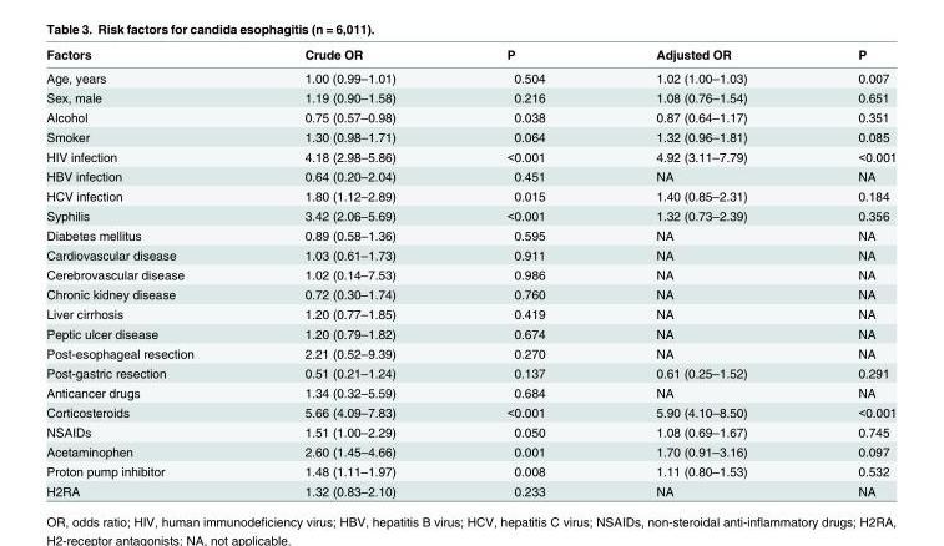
<table><thead><tr><td>Factors</td><td>Crude OR</td><td>P</td><td>Adjusted OR</td><td>P</td></tr></thead><tbody><tr><td>Age, years</td><td>1.00 (0.99–1.01)</td><td>0.504</td><td>1.02 (1.00–1.03)</td><td>0.007</td></tr><tr><td>Sex, male</td><td>1.19 (0.90–1.58)</td><td>0.216</td><td>1.08 (0.76–1.54)</td><td>0.651</td></tr><tr><td>Alcohol</td><td>0.75 (0.57–0.98)</td><td>0.038</td><td>0.87 (0.64–1.17)</td><td>0.351</td></tr><tr><td>Smoker</td><td>1.30 (0.98–1.71)</td><td>0.064</td><td>1.32 (0.96–1.81)</td><td>0.085</td></tr><tr><td>HIV infection</td><td>4.18 (2.98–5.86)</td><td>&lt;0.001</td><td>4.92 (3.11–7.79)</td><td>&lt;0.001</td></tr><tr><td>HBV infection</td><td>0.64 (0.20–2.04)</td><td>0.451</td><td>NA</td><td>NA</td></tr><tr><td>HCV infection</td><td>1.80 (1.12–2.89)</td><td>0.015</td><td>1.40 (0.85–2.31)</td><td>0.184</td></tr><tr><td>Syphilis</td><td>3.42 (2.06–5.69)</td><td>&lt;0.001</td><td>1.32 (0.73–2.39)</td><td>0.356</td></tr><tr><td>Diabetes mellitus</td><td>0.89 (0.58–1.36)</td><td>0.595</td><td>NA</td><td>NA</td></tr><tr><td>Cardiovascular disease</td><td>1.03 (0.61–1.73)</td><td>0.911</td><td>NA</td><td>NA</td></tr><tr><td>Cerebrovascular disease</td><td>1.02 (0.14–7.53)</td><td>0.986</td><td>NA</td><td>NA</td></tr><tr><td>Chronic kidney disease</td><td>0.72 (0.30–1.74)</td><td>0.760</td><td>NA</td><td>NA</td></tr><tr><td>Liver cirrhosis</td><td>1.20 (0.77–1.85)</td><td>0.419</td><td>NA</td><td>NA</td></tr><tr><td>Peptic ulcer disease</td><td>1.20 (0.79–1.82)</td><td>0.674</td><td>NA</td><td>NA</td></tr><tr><td>Post-esophageal resection</td><td>2.21 (0.52–9.39)</td><td>0.270</td><td>NA</td><td>NA</td></tr><tr><td>Post-gastric resection</td><td>0.51 (0.21–1.24)</td><td>0.137</td><td>0.61 (0.25–1.52)</td><td>0.291</td></tr><tr><td>Anticancer drugs</td><td>1.34 (0.32–5.59)</td><td>0.684</td><td>NA</td><td>NA</td></tr><tr><td>Corticosteroids</td><td>5.66 (4.09–7.83)</td><td>&lt;0.001</td><td>5.90 (4.10–8.50)</td><td>&lt;0.001</td></tr><tr><td>NSAIDs</td><td>1.51 (1.00–2.29)</td><td>0.050</td><td>1.08 (0.69–1.67)</td><td>0.745</td></tr><tr><td>Acetaminophen</td><td>2.60 (1.45–4.66)</td><td>0.001</td><td>1.70 (0.91–3.16)</td><td>0.097</td></tr><tr><td>Proton pump inhibitor</td><td>1.48 (1.11–1.97)</td><td>0.008</td><td>1.11 (0.80–1.53)</td><td>0.532</td></tr><tr><td>H2RA</td><td>1.32 (0.83–2.10)</td><td>0.233</td><td>NA</td><td>NA</td></tr></tbody></table>